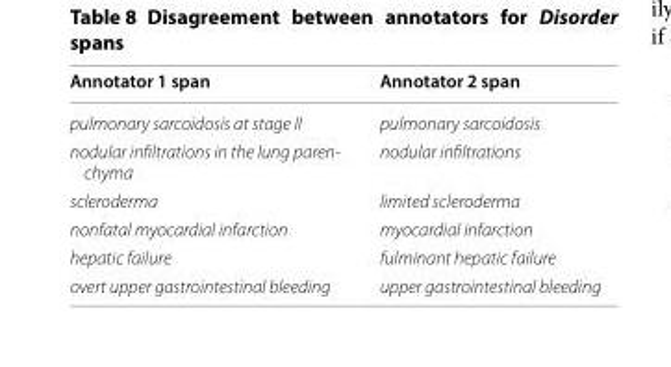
<table><thead><tr><td>Annotator 1 span</td><td>Annotator 2 span</td></tr></thead><tbody><tr><td>pulmonary sarcoidosis at stage II</td><td>pulmonary sarcoidosis</td></tr><tr><td>nodular infiltrations in the lung paren- chyma</td><td>nodular infiltrations</td></tr><tr><td>scleroderma</td><td>limited scleroderma</td></tr><tr><td>nonfatal myocardial infarction</td><td>myocardial infarction</td></tr><tr><td>hepatic failure</td><td>fulminant hepatic failure</td></tr><tr><td>overt upper gastrointestinal bleeding</td><td>upper gastrointestinal bleeding</td></tr></tbody></table>